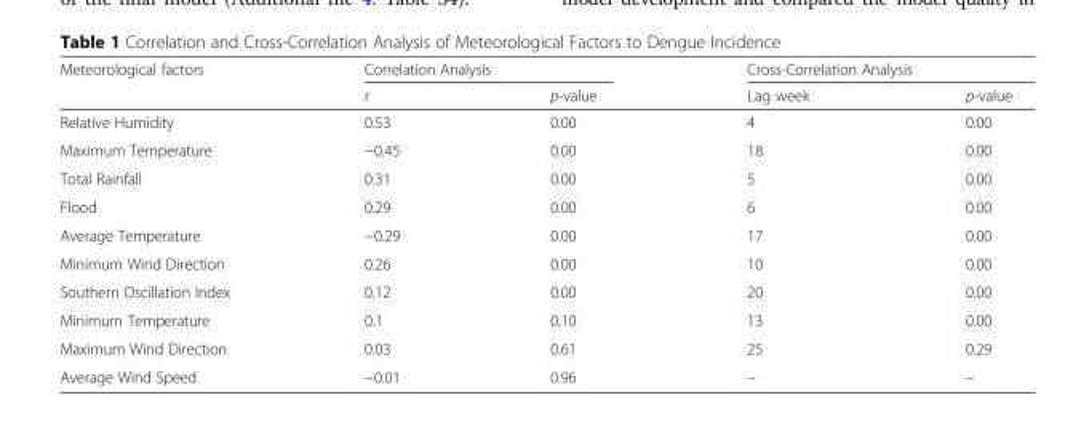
<table><thead><tr><td rowspan="2">Meteorological factors</td><td colspan="2">Correlation Analysis</td><td colspan="2">Cross-Correlation Analysis</td></tr><tr><td>r</td><td>p-value</td><td>Lag week</td><td>p-value</td></tr></thead><tbody><tr><td>Relative Humidity</td><td>0.53</td><td>0.00</td><td>4</td><td>0.00</td></tr><tr><td>Maximum Temperature</td><td>−0.45</td><td>0.00</td><td>18</td><td>0.00</td></tr><tr><td>Total Rainfall</td><td>0.31</td><td>0.00</td><td>5</td><td>0.00</td></tr><tr><td>Flood</td><td>0.29</td><td>0.00</td><td>6</td><td>0.00</td></tr><tr><td>Average Temperature</td><td>−0.29</td><td>0.00</td><td>17</td><td>0.00</td></tr><tr><td>Minimum Wind Direction</td><td>0.26</td><td>0.00</td><td>10</td><td>0.00</td></tr><tr><td>Southern Oscillation Index</td><td>0.12</td><td>0.00</td><td>20</td><td>0.00</td></tr><tr><td>Minimum Temperature</td><td>0.1</td><td>0.10</td><td>13</td><td>0.00</td></tr><tr><td>Maximum Wind Direction</td><td>0.03</td><td>0.61</td><td>25</td><td>0.29</td></tr><tr><td>Average Wind Speed</td><td>−0.01</td><td>0.96</td><td>–</td><td>–</td></tr></tbody></table>